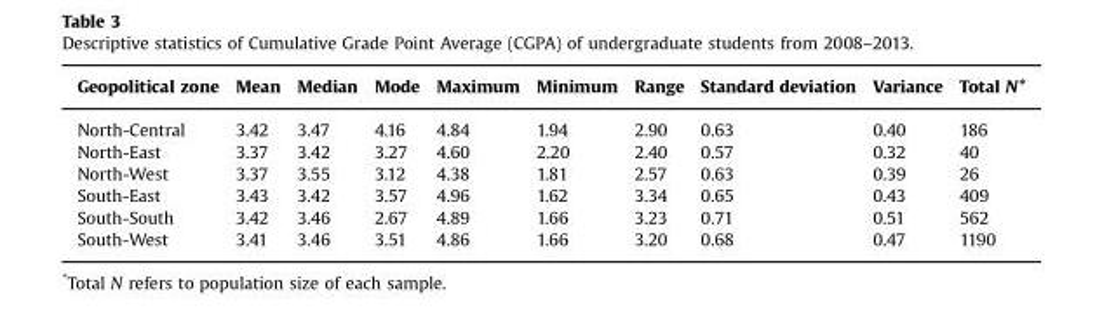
<table><thead><tr><td>Geopolitical zone</td><td>Mean</td><td>Median</td><td>Mode</td><td>Maximum</td><td>Minimum</td><td>Range</td><td>Standard deviation</td><td>Variance</td><td>Total N*</td></tr></thead><tbody><tr><td>North-Central</td><td>3.42</td><td>3.47</td><td>4.16</td><td>4.84</td><td>1.94</td><td>2.90</td><td>0.63</td><td>0.40</td><td>186</td></tr><tr><td>North-East</td><td>3.37</td><td>3.42</td><td>3.27</td><td>4.60</td><td>2.20</td><td>2.40</td><td>0.57</td><td>0.32</td><td>40</td></tr><tr><td>North-West</td><td>3.37</td><td>3.55</td><td>3.12</td><td>4.38</td><td>1.81</td><td>2.57</td><td>0.63</td><td>0.39</td><td>26</td></tr><tr><td>South-East</td><td>3.43</td><td>3.42</td><td>3.57</td><td>4.96</td><td>1.62</td><td>3.34</td><td>0.65</td><td>0.43</td><td>409</td></tr><tr><td>South-South</td><td>3.42</td><td>3.46</td><td>2.67</td><td>4.89</td><td>1.66</td><td>3.23</td><td>0.71</td><td>0.51</td><td>562</td></tr><tr><td>South-West</td><td>3.41</td><td>3.46</td><td>3.51</td><td>4.86</td><td>1.66</td><td>3.20</td><td>0.68</td><td>0.47</td><td>1190</td></tr></tbody></table>